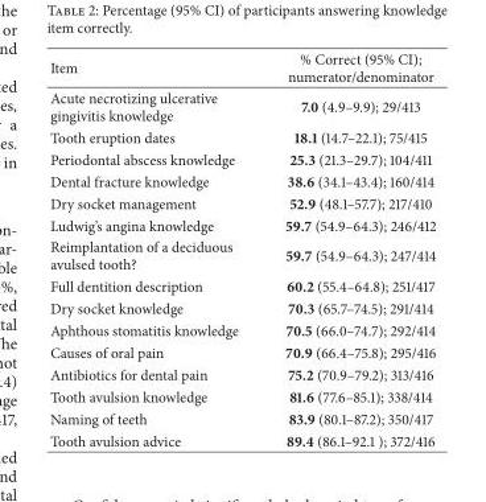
<table><thead><tr><td>Item</td><td>% Correct (95% CI); numerator/denominator</td></tr></thead><tbody><tr><td>Acute necrotizing ulcerative gingivitis knowledge</td><td>7.0 (4.9–9.9); 29/413</td></tr><tr><td>Tooth eruption dates</td><td>18.1 (14.7–22.1); 75/415</td></tr><tr><td>Periodontal abscess knowledge</td><td>25.3 (21.3–29.7); 104/411</td></tr><tr><td>Dental fracture knowledge</td><td>38.6 (34.1–43.4); 160/414</td></tr><tr><td>Dry socket management</td><td>52.9 (48.1–57.7); 217/410</td></tr><tr><td>Ludwig’s angina knowledge</td><td>59.7 (54.9–64.3); 246/412</td></tr><tr><td>Reimplantation of a deciduous avulsed tooth?</td><td>59.7 (54.9–64.3); 247/414</td></tr><tr><td>Full dentition description</td><td>60.2 (55.4–64.8); 251/417</td></tr><tr><td>Dry socket knowledge</td><td>70.3 (65.7–74.5); 291/414</td></tr><tr><td>Aphthous stomatitis knowledge</td><td>70.5 (66.0–74.7); 292/414</td></tr><tr><td>Causes of oral pain</td><td>70.9 (66.4–75.8); 295/416</td></tr><tr><td>Antibiotics for dental pain</td><td>75.2 (70.9–79.2); 313/416</td></tr><tr><td>Tooth avulsion knowledge</td><td>81.6 (77.6–85.1); 338/414</td></tr><tr><td>Naming of teeth</td><td>83.9 (80.1–87.2); 350/417</td></tr><tr><td>Tooth avulsion advice</td><td>89.4 (86.1–92.1 ); 372/416</td></tr></tbody></table>